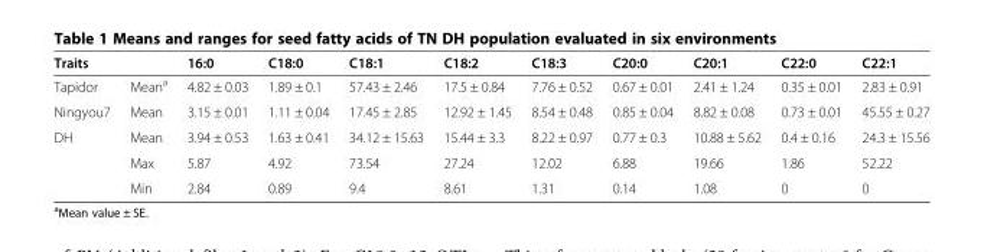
<table><thead><tr><td>Traits</td><td></td><td>16:0</td><td>C18:0</td><td>C18:1</td><td>C18:2</td><td>C18:3</td><td>C20:0</td><td>C20:1</td><td>C22:0</td><td>C22:1</td></tr></thead><tbody><tr><td>Tapidor</td><td>Mean<sup>a</sup></td><td>4.82 ± 0.03</td><td>1.89 ± 0.1</td><td>57.43 ± 2.46</td><td>17.5 ± 0.84</td><td>7.76 ± 0.52</td><td>0.67 ± 0.01</td><td>2.41 ± 1.24</td><td>0.35 ± 0.01</td><td>2.83 ± 0.91</td></tr><tr><td>Ningyou7</td><td>Mean</td><td>3.15 ± 0.01</td><td>1.11 ± 0.04</td><td>17.45 ± 2.85</td><td>12.92 ± 1.45</td><td>8.54 ± 0.48</td><td>0.85 ± 0.04</td><td>8.82 ± 0.08</td><td>0.73 ± 0.01</td><td>45.55 ± 0.27</td></tr><tr><td rowspan="3">DH</td><td>Mean</td><td>3.94 ± 0.53</td><td>1.63 ± 0.41</td><td>34.12 ± 15.63</td><td>15.44 ± 3.3</td><td>8.22 ± 0.97</td><td>0.77 ± 0.3</td><td>10.88 ± 5.62</td><td>0.4 ± 0.16</td><td>24.3 ± 15.56</td></tr><tr><td>Max</td><td>5.87</td><td>4.92</td><td>73.54</td><td>27.24</td><td>12.02</td><td>6.88</td><td>19.66</td><td>1.86</td><td>52.22</td></tr><tr><td>Min</td><td>2.84</td><td>0.89</td><td>9.4</td><td>8.61</td><td>1.31</td><td>0.14</td><td>1.08</td><td>0</td><td>0</td></tr></tbody></table>